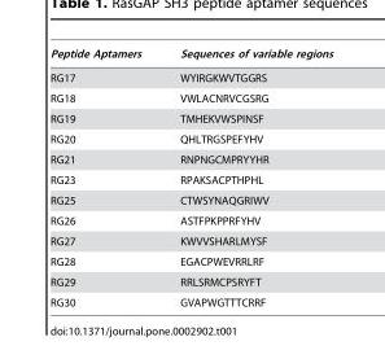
<table><thead><tr><td>Peptide Aptamers</td><td>Sequences of variable regions</td></tr></thead><tbody><tr><td>RG17</td><td>WYIRGKWVTGGRS</td></tr><tr><td>RG18</td><td>VWLACNRVCGSRG</td></tr><tr><td>RG19</td><td>TMHEKVWSPINSF</td></tr><tr><td>RG20</td><td>QHLTRGSPEFYHV</td></tr><tr><td>RG21</td><td>RNPNGCMPRYYHR</td></tr><tr><td>RG23</td><td>RPAKSACPTHPHL</td></tr><tr><td>RG25</td><td>CTWSYNAQGRIWV</td></tr><tr><td>RG26</td><td>ASTFPKPPRFYHV</td></tr><tr><td>RG27</td><td>KWVVSHARLMYSF</td></tr><tr><td>RG28</td><td>EGACPWEVRRLRF</td></tr><tr><td>RG29</td><td>RRLSRMCPSRYFT</td></tr><tr><td>RG30</td><td>GVAPWGTTTCRRF</td></tr></tbody></table>